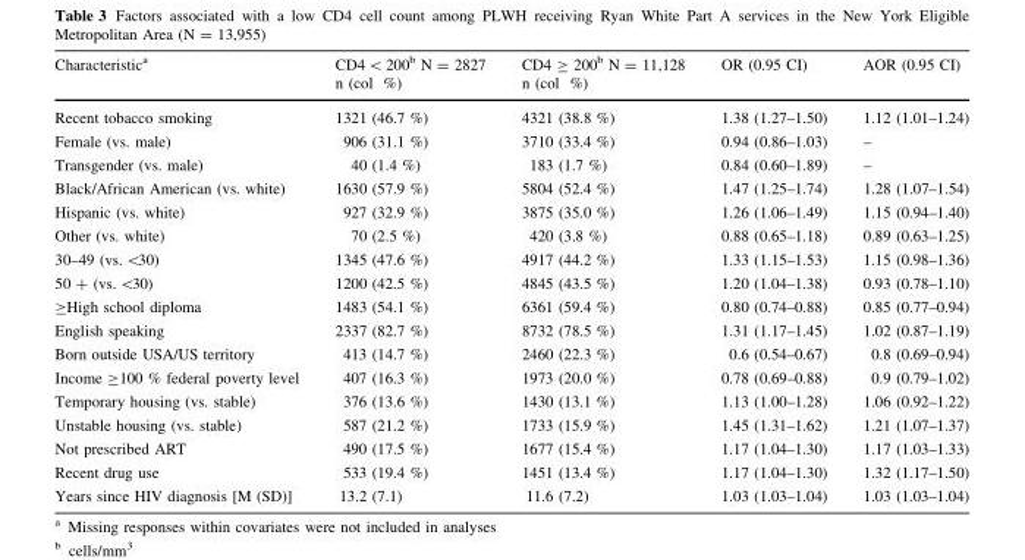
<table><thead><tr><td rowspan="2">Characteristic<sup>a</sup></td><td rowspan="2">CD4 &lt; 200<sup>b</sup> N = 2827 n (col %)</td><td rowspan="2">CD4 ≥ 200<sup>b</sup> N = 11,128 n (col %)</td><td rowspan="2">OR (0.95 CI)</td><td rowspan="2">AOR (0.95 CI)</td></tr><tr></tr></thead><tbody><tr><td>Recent tobacco smoking</td><td>1321 (46.7 %)</td><td>4321 (38.8 %)</td><td>1.38 (1.27–1.50)</td><td>1.12 (1.01–1.24)</td></tr><tr><td>Female (vs. male)</td><td>906 (31.1 %)</td><td>3710 (33.4 %)</td><td>0.94 (0.86–1.03)</td><td>–</td></tr><tr><td>Transgender (vs. male)</td><td>40 (1.4 %)</td><td>183 (1.7 %)</td><td>0.84 (0.60–1.89)</td><td>–</td></tr><tr><td>Black/African American (vs. white)</td><td>1630 (57.9 %)</td><td>5804 (52.4 %)</td><td>1.47 (1.25–1.74)</td><td>1.28 (1.07–1.54)</td></tr><tr><td>Hispanic (vs. white)</td><td>927 (32.9 %)</td><td>3875 (35.0 %)</td><td>1.26 (1.06–1.49)</td><td>1.15 (0.94–1.40)</td></tr><tr><td>Other (vs. white)</td><td>70 (2.5 %)</td><td>420 (3.8 %)</td><td>0.88 (0.65–1.18)</td><td>0.89 (0.63–1.25)</td></tr><tr><td>30–49 (vs. &lt;30)</td><td>1345 (47.6 %)</td><td>4917 (44.2 %)</td><td>1.33 (1.15–1.53)</td><td>1.15 (0.98–1.36)</td></tr><tr><td>50 + (vs. &lt;30)</td><td>1200 (42.5 %)</td><td>4845 (43.5 %)</td><td>1.20 (1.04–1.38)</td><td>0.93 (0.78–1.10)</td></tr><tr><td>≥High school diploma</td><td>1483 (54.1 %)</td><td>6361 (59.4 %)</td><td>0.80 (0.74–0.88)</td><td>0.85 (0.77–0.94)</td></tr><tr><td>English speaking</td><td>2337 (82.7 %)</td><td>8732 (78.5 %)</td><td>1.31 (1.17–1.45)</td><td>1.02 (0.87–1.19)</td></tr><tr><td>Born outside USA/US territory</td><td>413 (14.7 %)</td><td>2460 (22.3 %)</td><td>0.6 (0.54–0.67)</td><td>0.8 (0.69–0.94)</td></tr><tr><td>Income ≥100 % federal poverty level</td><td>407 (16.3 %)</td><td>1973 (20.0 %)</td><td>0.78 (0.69–0.88)</td><td>0.9 (0.79–1.02)</td></tr><tr><td>Temporary housing (vs. stable)</td><td>376 (13.6 %)</td><td>1430 (13.1 %)</td><td>1.13 (1.00–1.28)</td><td>1.06 (0.92–1.22)</td></tr><tr><td>Unstable housing (vs. stable)</td><td>587 (21.2 %)</td><td>1733 (15.9 %)</td><td>1.45 (1.31–1.62)</td><td>1.21 (1.07–1.37)</td></tr><tr><td>Not prescribed ART</td><td>490 (17.5 %)</td><td>1677 (15.4 %)</td><td>1.17 (1.04–1.30)</td><td>1.17 (1.03–1.33)</td></tr><tr><td>Recent drug use</td><td>533 (19.4 %)</td><td>1451 (13.4 %)</td><td>1.17 (1.04–1.30)</td><td>1.32 (1.17–1.50)</td></tr><tr><td>Years since HIV diagnosis [M (SD)]</td><td>13.2 (7.1)</td><td>11.6 (7.2)</td><td>1.03 (1.03–1.04)</td><td>1.03 (1.03–1.04)</td></tr></tbody></table>